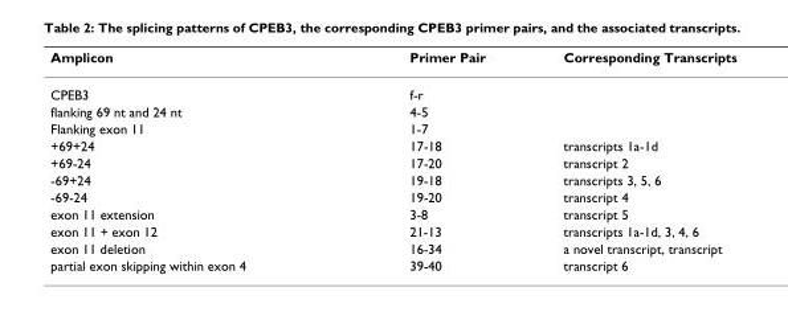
<table><thead><tr><td>Amplicon</td><td>Primer Pair</td><td>Corresponding Transcripts</td></tr></thead><tbody><tr><td>CPEB3</td><td>f-r</td><td></td></tr><tr><td>flanking 69 nt and 24 nt</td><td>4-5</td><td></td></tr><tr><td>Flanking exon 11</td><td>1-7</td><td></td></tr><tr><td>+69+24</td><td>17-18</td><td>transcripts 1a-1d</td></tr><tr><td>+69-24</td><td>17-20</td><td>transcript 2</td></tr><tr><td>-69+24</td><td>19-18</td><td>transcripts 3, 5, 6</td></tr><tr><td>-69-24</td><td>19-20</td><td>transcript 4</td></tr><tr><td>exon 11 extension</td><td>3-8</td><td>transcript 5</td></tr><tr><td>exon 11 + exon 12</td><td>21-13</td><td>transcripts 1a-1d, 3, 4, 6</td></tr><tr><td>exon 11 deletion</td><td>16-34</td><td>a novel transcript, transcript</td></tr><tr><td>partial exon skipping within exon 4</td><td>39-40</td><td>transcript 6</td></tr></tbody></table>